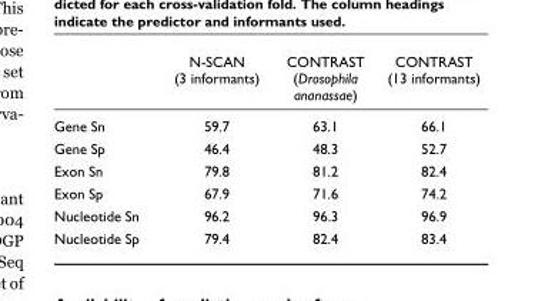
<table><thead><tr><td></td><td>N-SCAN (3 informants)</td><td>CONTRAST (Drosophila ananassae)</td><td>CONTRAST (13 informants)</td></tr></thead><tbody><tr><td>Gene Sn</td><td>59.7</td><td>63.1</td><td>66.1</td></tr><tr><td>Gene Sp</td><td>46.4</td><td>48.3</td><td>52.7</td></tr><tr><td>Exon Sn</td><td>79.8</td><td>81.2</td><td>82.4</td></tr><tr><td>Exon Sp</td><td>67.9</td><td>71.6</td><td>74.2</td></tr><tr><td>Nucleotide Sn</td><td>96.2</td><td>96.3</td><td>96.9</td></tr><tr><td>Nucleotide Sp</td><td>79.4</td><td>82.4</td><td>83.4</td></tr></tbody></table>